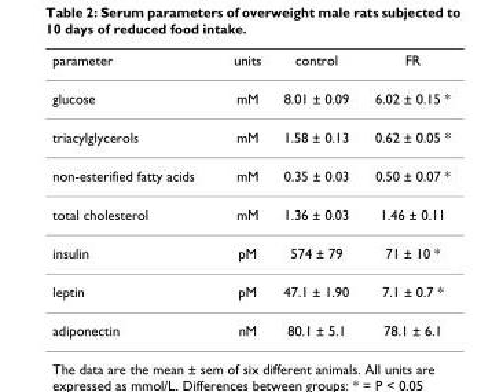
<table><thead><tr><td>parameter</td><td>units</td><td>control</td><td>FR</td></tr></thead><tbody><tr><td>glucose</td><td>mM</td><td>8.01 ± 0.09</td><td>6.02 ± 0.15 *</td></tr><tr><td>triacylglycerols</td><td>mM</td><td>1.58 ± 0.13</td><td>0.62 ± 0.05 *</td></tr><tr><td>non-esterified fatty acids</td><td>mM</td><td>0.35 ± 0.03</td><td>0.50 ± 0.07 *</td></tr><tr><td>total cholesterol</td><td>mM</td><td>1.36 ± 0.03</td><td>1.46 ± 0.11</td></tr><tr><td>insulin</td><td>pM</td><td>574 ± 79</td><td>71 ± 10 *</td></tr><tr><td>leptin</td><td>pM</td><td>47.1 ± 1.90</td><td>7.1 ± 0.7 *</td></tr><tr><td>adiponectin</td><td>nM</td><td>80.1 ± 5.1</td><td>78.1 ± 6.1</td></tr></tbody></table>